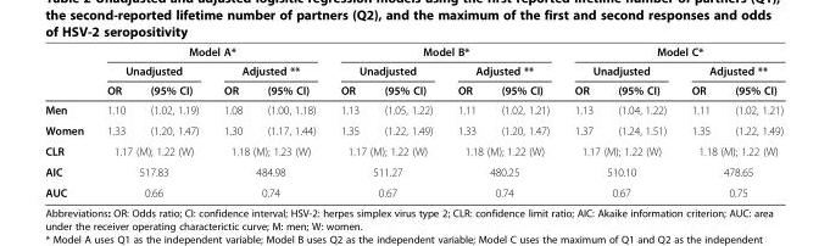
<table><thead><tr><td rowspan="3"></td><td colspan="4">Model A*</td><td colspan="4">Model B*</td><td colspan="4">Model C*</td></tr><tr><td colspan="2">Unadjusted</td><td colspan="2">Adjusted **</td><td colspan="2">Unadjusted</td><td colspan="2">Adjusted **</td><td colspan="2">Unadjusted</td><td colspan="2">Adjusted **</td></tr><tr><td>OR</td><td>(95% CI)</td><td>OR</td><td>(95% CI)</td><td>OR</td><td>(95% CI)</td><td>OR</td><td>(95% CI)</td><td>OR</td><td>(95% CI)</td><td>OR</td><td>(95% CI)</td></tr></thead><tbody><tr><td>Men</td><td>1.10</td><td>(1.02, 1.19)</td><td>1.08</td><td>(1.00, 1.18)</td><td>1.13</td><td>(1.05, 1.22)</td><td>1.11</td><td>(1.02, 1.21)</td><td>1.13</td><td>(1.04, 1.22)</td><td>1.11</td><td>(1.02, 1.21)</td></tr><tr><td>Women</td><td>1.33</td><td>(1.20, 1.47)</td><td>1.30</td><td>(1.17, 1.44)</td><td>1.35</td><td>(1.22, 1.49)</td><td>1.33</td><td>(1.20, 1.47)</td><td>1.37</td><td>(1.24, 1.51)</td><td>1.35</td><td>(1.22, 1.49)</td></tr><tr><td>CLR</td><td colspan="2">1.17 (M); 1.22 (W)</td><td colspan="2">1.18 (M); 1.23 (W)</td><td colspan="2">1.17 (M); 1.22 (W)</td><td colspan="2">1.18 (M); 1.22 (W)</td><td colspan="2">1.17 (M); 1.22 (W)</td><td colspan="2">1.18 (M); 1.22 (W)</td></tr><tr><td>AIC</td><td colspan="2">517.83</td><td colspan="2">484.98</td><td colspan="2">511.27</td><td colspan="2">480.25</td><td colspan="2">510.10</td><td colspan="2">478.65</td></tr><tr><td>AUC</td><td colspan="2">0.66</td><td colspan="2">0.74</td><td colspan="2">0.67</td><td colspan="2">0.74</td><td colspan="2">0.67</td><td colspan="2">0.75</td></tr></tbody></table>